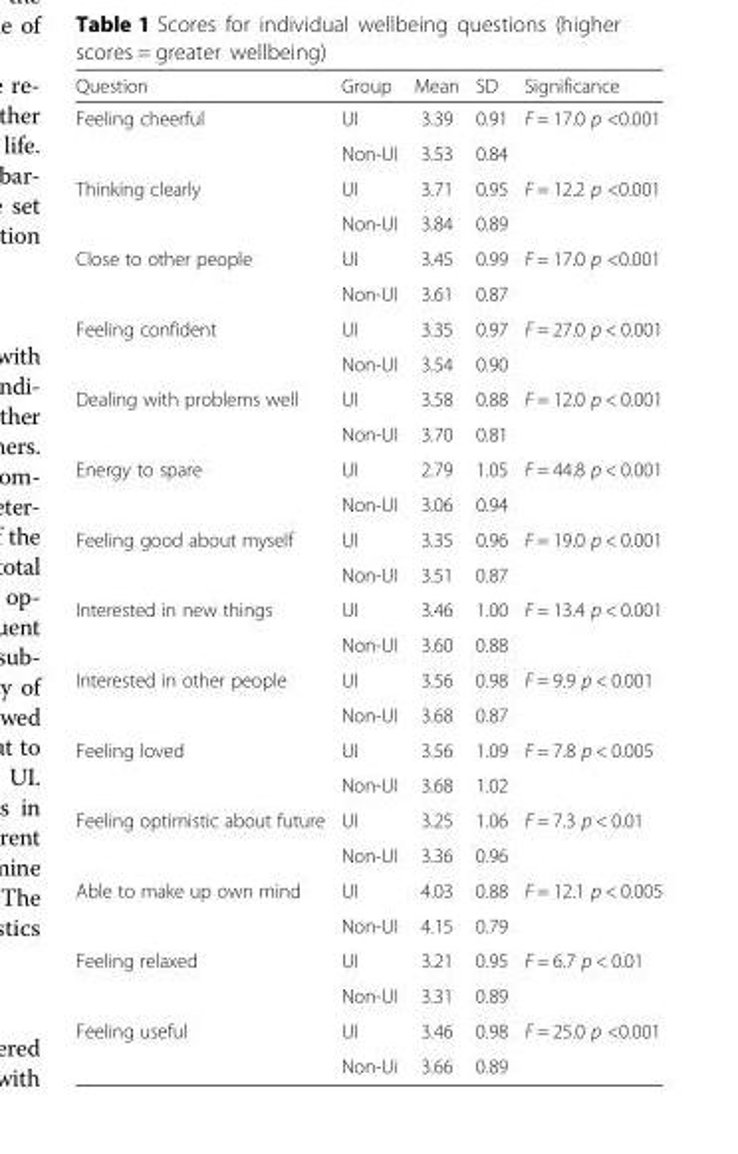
<table><thead><tr><td>Question</td><td>Group</td><td>Mean</td><td>SD</td><td>Significance</td></tr></thead><tbody><tr><td rowspan="2">Feeling cheerful</td><td>UI</td><td>3.39</td><td>0.91</td><td>F = 17.0 p &lt;0.001</td></tr><tr><td>Non-UI</td><td>3.53</td><td>0.84</td><td></td></tr><tr><td rowspan="2">Thinking clearly</td><td>UI</td><td>3.71</td><td>0.95</td><td>F = 12.2 p &lt;0.001</td></tr><tr><td>Non-UI</td><td>3.84</td><td>0.89</td><td></td></tr><tr><td rowspan="2">Close to other people</td><td>UI</td><td>3.45</td><td>0.99</td><td>F = 17.0 p &lt;0.001</td></tr><tr><td>Non-UI</td><td>3.61</td><td>0.87</td><td></td></tr><tr><td rowspan="2">Feeling confident</td><td>UI</td><td>3.35</td><td>0.97</td><td>F = 27.0 p &lt; 0.001</td></tr><tr><td>Non-UI</td><td>3.54</td><td>0.90</td><td></td></tr><tr><td rowspan="2">Dealing with problems well</td><td>UI</td><td>3.58</td><td>0.88</td><td>F = 12.0 p &lt; 0.001</td></tr><tr><td>Non-UI</td><td>3.70</td><td>0.81</td><td></td></tr><tr><td rowspan="2">Energy to spare</td><td>UI</td><td>2.79</td><td>1.05</td><td>F = 44.8 p &lt; 0.001</td></tr><tr><td>Non-UI</td><td>3.06</td><td>0.94</td><td></td></tr><tr><td rowspan="2">Feeling good about myself</td><td>UI</td><td>3.35</td><td>0.96</td><td>F = 19.0 p &lt; 0.001</td></tr><tr><td>Non-UI</td><td>3.51</td><td>0.87</td><td></td></tr><tr><td rowspan="2">Interested in new things</td><td>UI</td><td>3.46</td><td>1.00</td><td>F = 13.4 p &lt; 0.001</td></tr><tr><td>Non-UI</td><td>3.60</td><td>0.88</td><td></td></tr><tr><td rowspan="2">Interested in other people</td><td>UI</td><td>3.56</td><td>0.98</td><td>F = 9.9 p &lt; 0.001</td></tr><tr><td>Non-UI</td><td>3.68</td><td>0.87</td><td></td></tr><tr><td rowspan="2">Feeling loved</td><td>UI</td><td>3.56</td><td>1.09</td><td>F = 7.8 p &lt; 0.005</td></tr><tr><td>Non-UI</td><td>3.68</td><td>1.02</td><td></td></tr><tr><td rowspan="2">Feeling optimistic about future</td><td>UI</td><td>3.25</td><td>1.06</td><td>F = 7.3 p &lt; 0.01</td></tr><tr><td>Non-UI</td><td>3.36</td><td>0.96</td><td></td></tr><tr><td rowspan="2">Able to make up own mind</td><td>UI</td><td>4.03</td><td>0.88</td><td>F = 12.1 p &lt; 0.005</td></tr><tr><td>Non-UI</td><td>4.15</td><td>0.79</td><td></td></tr><tr><td rowspan="2">Feeling relaxed</td><td>UI</td><td>3.21</td><td>0.95</td><td>F = 6.7 p &lt; 0.01</td></tr><tr><td>Non-UI</td><td>3.31</td><td>0.89</td><td></td></tr><tr><td rowspan="2">Feeling useful</td><td>UI</td><td>3.46</td><td>0.98</td><td>F = 25.0 p &lt;0.001</td></tr><tr><td>Non-Ui</td><td>3.66</td><td>0.89</td><td></td></tr></tbody></table>